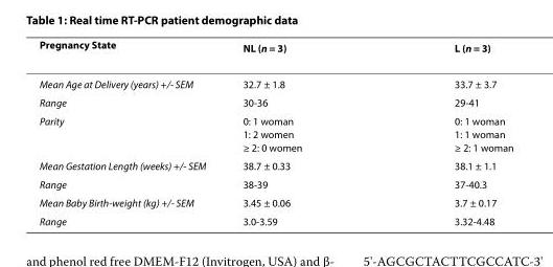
<table><thead><tr><td>Pregnancy State</td><td>NL (n = 3)</td><td>L (n = 3)</td></tr></thead><tbody><tr><td>Mean Age at Delivery (years) +/- SEM</td><td>32.7 ± 1.8</td><td>33.7 ± 3.7</td></tr><tr><td>Range</td><td>30-36</td><td>29-41</td></tr><tr><td>Parity</td><td>0: 1 woman 1: 2 women ≥ 2: 0 women</td><td>0: 1 woman 1: 1 woman ≥ 2: 1 woman</td></tr><tr><td>Mean Gestation Length (weeks) +/- SEM</td><td>38.7 ± 0.33</td><td>38.1 ± 1.1</td></tr><tr><td>Range</td><td>38-39</td><td>37-40.3</td></tr><tr><td>Mean Baby Birth-weight (kg) +/- SEM</td><td>3.45 ± 0.06</td><td>3.7 ± 0.17</td></tr><tr><td>Range</td><td>3.0-3.59</td><td>3.32-4.48</td></tr></tbody></table>